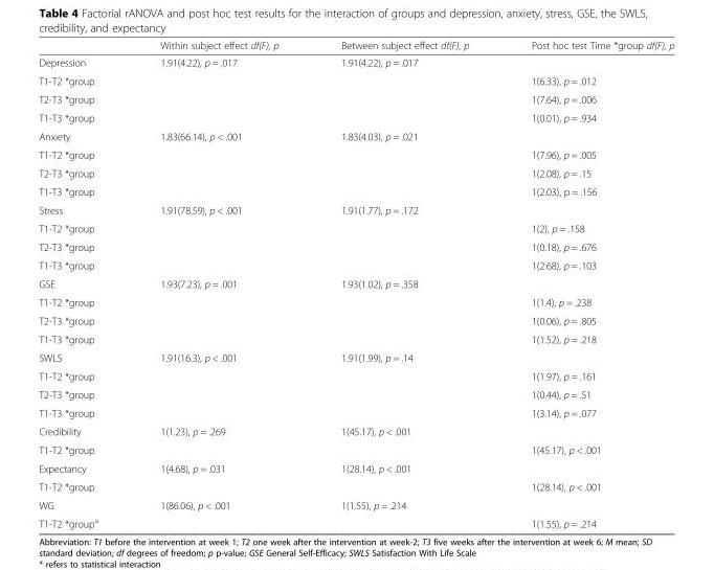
<table><thead><tr><td></td><td>Within subject effect df(F), p</td><td>Between subject effect df(F), p</td><td>Post hoc test Time *group df(F), p</td></tr></thead><tbody><tr><td>Depression</td><td>1.91(4.22), p = .017</td><td>1.91(4.22), p = .017</td><td></td></tr><tr><td>T1-T2 *group</td><td></td><td></td><td>1(6.33), p = .012</td></tr><tr><td>T2-T3 *group</td><td></td><td></td><td>1(7.64), p = .006</td></tr><tr><td>T1-T3 *group</td><td></td><td></td><td>1(0.01), p = .934</td></tr><tr><td>Anxiety</td><td>1.83(66.14), p &lt; .001</td><td>1.83(4.03), p = .021</td><td></td></tr><tr><td>T1-T2 *group</td><td></td><td></td><td>1(7.96), p = .005</td></tr><tr><td>T2-T3 *group</td><td></td><td></td><td>1(2.08), p = .15</td></tr><tr><td>T1-T3 *group</td><td></td><td></td><td>1(2.03), p = .156</td></tr><tr><td>Stress</td><td>1.91(78.59), p &lt; .001</td><td>1.91(1.77), p = .172</td><td></td></tr><tr><td>T1-T2 *group</td><td></td><td></td><td>1(2), p = .158</td></tr><tr><td>T2-T3 *group</td><td></td><td></td><td>1(0.18), p = .676</td></tr><tr><td>T1-T3 *group</td><td></td><td></td><td>1(2.68), p = .103</td></tr><tr><td>GSE</td><td>1.93(7.23), p = .001</td><td>1.93(1.02), p = .358</td><td></td></tr><tr><td>T1-T2 *group</td><td></td><td></td><td>1(1.4), p = .238</td></tr><tr><td>T2-T3 *group</td><td></td><td></td><td>1(0.06), p = .805</td></tr><tr><td>T1-T3 *group</td><td></td><td></td><td>1(1.52), p = .218</td></tr><tr><td>SWLS</td><td>1.91(16.3), p &lt; .001</td><td>1.91(1.99), p = .14</td><td></td></tr><tr><td>T1-T2 *group</td><td></td><td></td><td>1(1.97), p = .161</td></tr><tr><td>T2-T3 *group</td><td></td><td></td><td>1(0.44), p = .51</td></tr><tr><td>T1-T3 *group</td><td></td><td></td><td>1(3.14), p = .077</td></tr><tr><td>Credibility</td><td>1(1.23), p = .269</td><td>1(45.17), p &lt; .001</td><td></td></tr><tr><td>T1-T2 *group</td><td></td><td></td><td>1(45.17), p &lt; .001</td></tr><tr><td>Expectancy</td><td>1(4.68), p = .031</td><td>1(28.14), p &lt; .001</td><td></td></tr><tr><td>T1-T2 *group</td><td></td><td></td><td>1(28.14), p &lt; .001</td></tr><tr><td>WG</td><td>1(86.06), p &lt; .001</td><td>1(1.55), p = .214</td><td></td></tr><tr><td>T1-T2 *group<sup>a</sup></td><td></td><td></td><td>1(1.55), p = .214</td></tr></tbody></table>